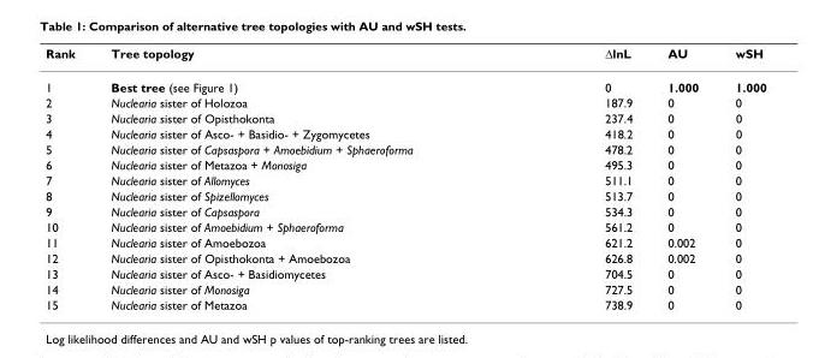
<table><thead><tr><td>Rank</td><td>Tree topology</td><td>ΔlnL</td><td>AU</td><td>wSH</td></tr></thead><tbody><tr><td>1</td><td>Best tree (see Figure 1)</td><td>0</td><td>1.000</td><td>1.000</td></tr><tr><td>2</td><td>Nuclearia sister of Holozoa</td><td>187.9</td><td>0</td><td>0</td></tr><tr><td>3</td><td>Nuclearia sister of Opisthokonta</td><td>237.4</td><td>0</td><td>0</td></tr><tr><td>4</td><td>Nuclearia sister of Asco- + Basidio- + Zygomycetes</td><td>418.2</td><td>0</td><td>0</td></tr><tr><td>5</td><td>Nuclearia sister of Capsaspora + Amoebidium + Sphaeroforma</td><td>478.2</td><td>0</td><td>0</td></tr><tr><td>6</td><td>Nuclearia sister of Metazoa + Monosiga</td><td>495.3</td><td>0</td><td>0</td></tr><tr><td>7</td><td>Nuclearia sister of Allomyces</td><td>511.1</td><td>0</td><td>0</td></tr><tr><td>8</td><td>Nuclearia sister of Spizellomyces</td><td>513.7</td><td>0</td><td>0</td></tr><tr><td>9</td><td>Nuclearia sister of Capsaspora</td><td>534.3</td><td>0</td><td>0</td></tr><tr><td>10</td><td>Nuclearia sister of Amoebidium + Sphaeroforma</td><td>561.2</td><td>0</td><td>0</td></tr><tr><td>11</td><td>Nuclearia sister of Amoebozoa</td><td>621.2</td><td>0.002</td><td>0</td></tr><tr><td>12</td><td>Nuclearia sister of Opisthokonta + Amoebozoa</td><td>626.8</td><td>0.002</td><td>0</td></tr><tr><td>13</td><td>Nuclearia sister of Asco- + Basidiomycetes</td><td>704.5</td><td>0</td><td>0</td></tr><tr><td>14</td><td>Nuclearia sister of Monosiga</td><td>727.5</td><td>0</td><td>0</td></tr><tr><td>15</td><td>Nuclearia sister of Metazoa</td><td>738.9</td><td>0</td><td>0</td></tr></tbody></table>